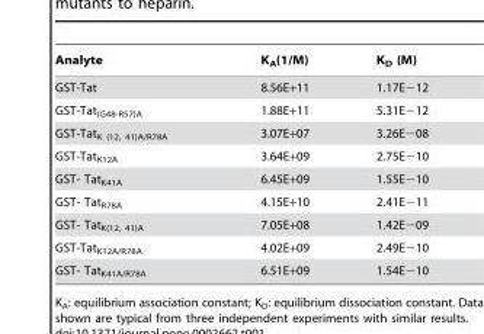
<table><thead><tr><td>Analyte</td><td>K<sub>A</sub>(1/M)</td><td>K<sub>D</sub> (M)</td></tr></thead><tbody><tr><td>GST-Tat</td><td>8.56E+11</td><td>1.17E−12</td></tr><tr><td>GST-Tat<sub>(G48-R57)A</sub></td><td>1.88E+11</td><td>5.31E−12</td></tr><tr><td>GST-Tat<sub>K (12, 41)A/R78A</sub></td><td>3.07E+07</td><td>3.26E−08</td></tr><tr><td>GST-Tat<sub>K12A</sub></td><td>3.64E+09</td><td>2.75E−10</td></tr><tr><td>GST- Tat<sub>K41A</sub></td><td>6.45E+09</td><td>1.55E−10</td></tr><tr><td>GST- Tat<sub>R78A</sub></td><td>4.15E+10</td><td>2.41E−11</td></tr><tr><td>GST- Tat<sub>K(12, 41)A</sub></td><td>7.05E+08</td><td>1.42E−09</td></tr><tr><td>GST-Tat<sub>K12A/R78A</sub></td><td>4.02E+09</td><td>2.49E−10</td></tr><tr><td>GST- Tat<sub>K41A/R78A</sub></td><td>6.51E+09</td><td>1.54E−10</td></tr></tbody></table>